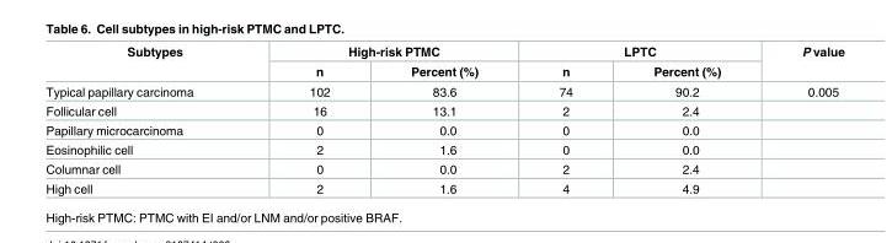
<table><thead><tr><td rowspan="2">Subtypes</td><td colspan="2">High-risk PTMC</td><td colspan="2">LPTC</td><td rowspan="2">P value</td></tr><tr><td>n</td><td>Percent (%)</td><td>n</td><td>Percent (%)</td></tr></thead><tbody><tr><td>Typical papillary carcinoma</td><td>102</td><td>83.6</td><td>74</td><td>90.2</td><td>0.005</td></tr><tr><td>Follicular cell</td><td>16</td><td>13.1</td><td>2</td><td>2.4</td><td></td></tr><tr><td>Papillary microcarcinoma</td><td>0</td><td>0.0</td><td>0</td><td>0.0</td><td></td></tr><tr><td>Eosinophilic cell</td><td>2</td><td>1.6</td><td>0</td><td>0.0</td><td></td></tr><tr><td>Columnar cell</td><td>0</td><td>0.0</td><td>2</td><td>2.4</td><td></td></tr><tr><td>High cell</td><td>2</td><td>1.6</td><td>4</td><td>4.9</td><td></td></tr></tbody></table>